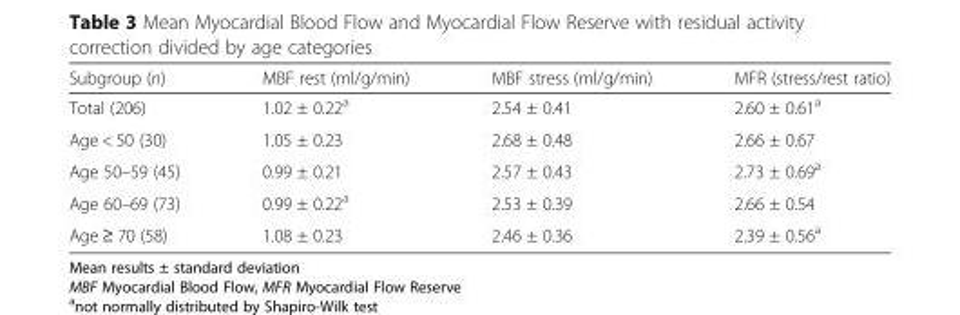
<table><thead><tr><td>Subgroup (n)</td><td>MBF rest (ml/g/min)</td><td>MBF stress (ml/g/min)</td><td>MFR (stress/rest ratio)</td></tr></thead><tbody><tr><td>Total (206)</td><td>1.02 ± 0.22<sup>a</sup></td><td>2.54 ± 0.41</td><td>2.60 ± 0.61<sup>a</sup></td></tr><tr><td>Age &lt; 50 (30)</td><td>1.05 ± 0.23</td><td>2.68 ± 0.48</td><td>2.66 ± 0.67</td></tr><tr><td>Age 50–59 (45)</td><td>0.99 ± 0.21</td><td>2.57 ± 0.43</td><td>2.73 ± 0.69<sup>a</sup></td></tr><tr><td>Age 60–69 (73)</td><td>0.99 ± 0.22<sup>a</sup></td><td>2.53 ± 0.39</td><td>2.66 ± 0.54</td></tr><tr><td>Age ≥ 70 (58)</td><td>1.08 ± 0.23</td><td>2.46 ± 0.36</td><td>2.39 ± 0.56<sup>a</sup></td></tr></tbody></table>